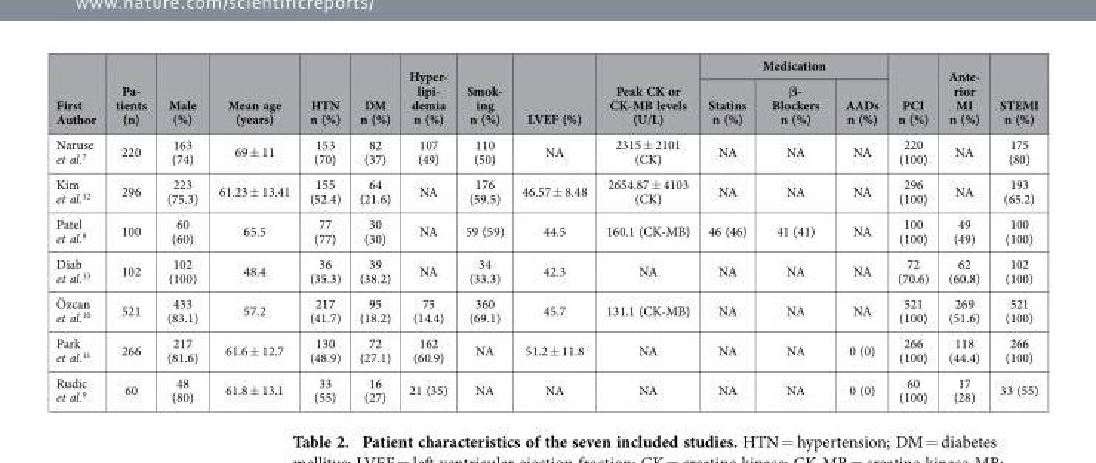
<table><thead><tr><td rowspan="2">First Author</td><td rowspan="2">Pa- tients (n)</td><td rowspan="2">Male (%)</td><td rowspan="2">Mean age (years)</td><td rowspan="2">HTN n (%)</td><td rowspan="2">DM n (%)</td><td rowspan="2">Hyper- lipi- demia n (%)</td><td rowspan="2">Smok- ing n (%)</td><td rowspan="2">LVEF (%)</td><td rowspan="2">Peak CK or CK-MB levels (U/L)</td><td colspan="3">Medication</td><td rowspan="2">PCI n (%)</td><td rowspan="2">Ante- rior MI n (%)</td><td rowspan="2">STEMI n (%)</td></tr><tr><td>Statins n (%)</td><td>β- Blockers n (%)</td><td>AADs n (%)</td></tr></thead><tbody><tr><td>Naruse et al.<sup>7</sup></td><td>220</td><td>163 (74)</td><td>69 ± 11</td><td>153 (70)</td><td>82 (37)</td><td>107 (49)</td><td>110 (50)</td><td>NA</td><td>2315 ± 2101 (CK)</td><td>NA</td><td>NA</td><td>NA</td><td>220 (100)</td><td>NA</td><td>175 (80)</td></tr><tr><td>Kim et al.<sup>12</sup></td><td>296</td><td>223 (75.3)</td><td>61.23 ± 13.41</td><td>155 (52.4)</td><td>64 (21.6)</td><td>NA</td><td>176 (59.5)</td><td>46.57 ± 8.48</td><td>2654.87 ± 4103 (CK)</td><td>NA</td><td>NA</td><td>NA</td><td>296 (100)</td><td>NA</td><td>193 (65.2)</td></tr><tr><td>Patel et al.<sup>8</sup></td><td>100</td><td>60 (60)</td><td>65.5</td><td>77 (77)</td><td>30 (30)</td><td>NA</td><td>59 (59)</td><td>44.5</td><td>160.1 (CK-MB)</td><td>46 (46)</td><td>41 (41)</td><td>NA</td><td>100 (100)</td><td>49 (49)</td><td>100 (100)</td></tr><tr><td>Diab et al.<sup>13</sup></td><td>102</td><td>102 (100)</td><td>48.4</td><td>36 (35.3)</td><td>39 (38.2)</td><td>NA</td><td>34 (33.3)</td><td>42.3</td><td>NA</td><td>NA</td><td>NA</td><td>NA</td><td>72 (70.6)</td><td>62 (60.8)</td><td>102 (100)</td></tr><tr><td>Özcan et al.<sup>10</sup></td><td>521</td><td>433 (83.1)</td><td>57.2</td><td>217 (41.7)</td><td>95 (18.2)</td><td>75 (14.4)</td><td>360 (69.1)</td><td>45.7</td><td>131.1 (CK-MB)</td><td>NA</td><td>NA</td><td>NA</td><td>521 (100)</td><td>269 (51.6)</td><td>521 (100)</td></tr><tr><td>Park et al.<sup>11</sup></td><td>266</td><td>217 (81.6)</td><td>61.6 ± 12.7</td><td>130 (48.9)</td><td>72 (27.1)</td><td>162 (60.9)</td><td>NA</td><td>51.2 ± 11.8</td><td>NA</td><td>NA</td><td>NA</td><td>0 (0)</td><td>266 (100)</td><td>118 (44.4)</td><td>266 (100)</td></tr><tr><td>Rudic et al.<sup>9</sup></td><td>60</td><td>48 (80)</td><td>61.8 ± 13.1</td><td>33 (55)</td><td>16 (27)</td><td>21 (35)</td><td>NA</td><td>NA</td><td>NA</td><td>NA</td><td>NA</td><td>0 (0)</td><td>60 (100)</td><td>17 (28)</td><td>33 (55)</td></tr></tbody></table>